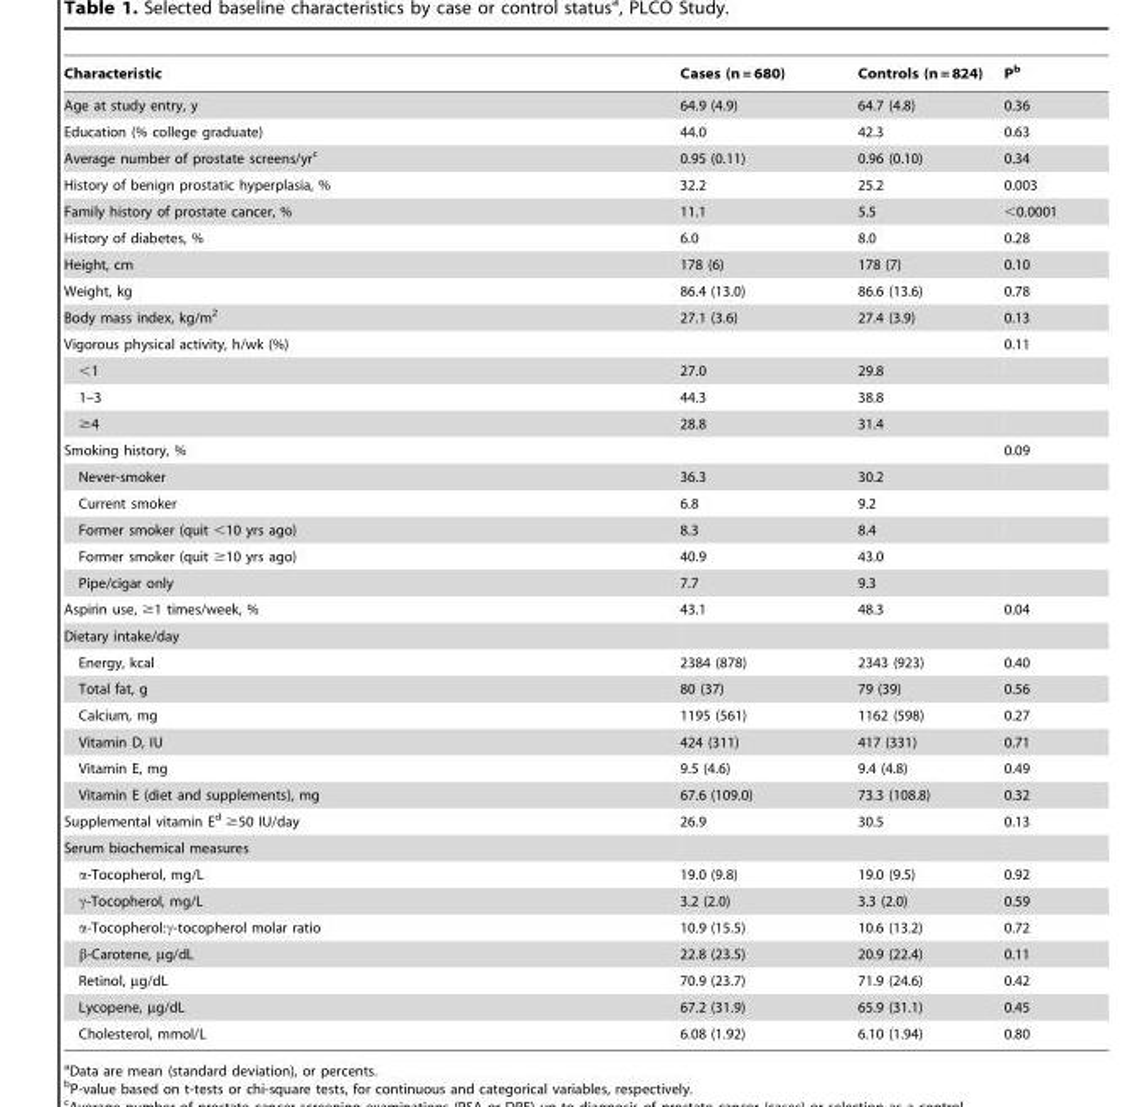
<table><thead><tr><td>Characteristic</td><td>Cases (n = 680)</td><td>Controls (n = 824)</td><td>P<sup>b</sup></td></tr></thead><tbody><tr><td>Age at study entry, y</td><td>64.9 (4.9)</td><td>64.7 (4.8)</td><td>0.36</td></tr><tr><td>Education (% college graduate)</td><td>44.0</td><td>42.3</td><td>0.63</td></tr><tr><td>Average number of prostate screens/yr<sup>c</sup></td><td>0.95 (0.11)</td><td>0.96 (0.10)</td><td>0.34</td></tr><tr><td>History of benign prostatic hyperplasia, %</td><td>32.2</td><td>25.2</td><td>0.003</td></tr><tr><td>Family history of prostate cancer, %</td><td>11.1</td><td>5.5</td><td>&lt;0.0001</td></tr><tr><td>History of diabetes, %</td><td>6.0</td><td>8.0</td><td>0.28</td></tr><tr><td>Height, cm</td><td>178 (6)</td><td>178 (7)</td><td>0.10</td></tr><tr><td>Weight, kg</td><td>86.4 (13.0)</td><td>86.6 (13.6)</td><td>0.78</td></tr><tr><td>Body mass index, kg/m<sup>2</sup></td><td>27.1 (3.6)</td><td>27.4 (3.9)</td><td>0.13</td></tr><tr><td>Vigorous physical activity, h/wk (%)</td><td></td><td></td><td>0.11</td></tr><tr><td>&lt;1</td><td>27.0</td><td>29.8</td><td></td></tr><tr><td>1–3</td><td>44.3</td><td>38.8</td><td></td></tr><tr><td>≥4</td><td>28.8</td><td>31.4</td><td></td></tr><tr><td>Smoking history, %</td><td></td><td></td><td>0.09</td></tr><tr><td>Never-smoker</td><td>36.3</td><td>30.2</td><td></td></tr><tr><td>Current smoker</td><td>6.8</td><td>9.2</td><td></td></tr><tr><td>Former smoker (quit &lt;10 yrs ago)</td><td>8.3</td><td>8.4</td><td></td></tr><tr><td>Former smoker (quit ≥10 yrs ago)</td><td>40.9</td><td>43.0</td><td></td></tr><tr><td>Pipe/cigar only</td><td>7.7</td><td>9.3</td><td></td></tr><tr><td>Aspirin use, ≥1 times/week, %</td><td>43.1</td><td>48.3</td><td>0.04</td></tr><tr><td colspan="4">Dietary intake/day</td></tr><tr><td>Energy, kcal</td><td>2384 (878)</td><td>2343 (923)</td><td>0.40</td></tr><tr><td>Total fat, g</td><td>80 (37)</td><td>79 (39)</td><td>0.56</td></tr><tr><td>Calcium, mg</td><td>1195 (561)</td><td>1162 (598)</td><td>0.27</td></tr><tr><td>Vitamin D, IU</td><td>424 (311)</td><td>417 (331)</td><td>0.71</td></tr><tr><td>Vitamin E, mg</td><td>9.5 (4.6)</td><td>9.4 (4.8)</td><td>0.49</td></tr><tr><td>Vitamin E (diet and supplements), mg</td><td>67.6 (109.0)</td><td>73.3 (108.8)</td><td>0.32</td></tr><tr><td>Supplemental vitamin E<sup>d</sup> ≥50 IU/day</td><td>26.9</td><td>30.5</td><td>0.13</td></tr><tr><td colspan="4">Serum biochemical measures</td></tr><tr><td>α-Tocopherol, mg/L</td><td>19.0 (9.8)</td><td>19.0 (9.5)</td><td>0.92</td></tr><tr><td>γ-Tocopherol, mg/L</td><td>3.2 (2.0)</td><td>3.3 (2.0)</td><td>0.59</td></tr><tr><td>α-Tocopherol:γ-tocopherol molar ratio</td><td>10.9 (15.5)</td><td>10.6 (13.2)</td><td>0.72</td></tr><tr><td>β-Carotene, µg/dL</td><td>22.8 (23.5)</td><td>20.9 (22.4)</td><td>0.11</td></tr><tr><td>Retinol, µg/dL</td><td>70.9 (23.7)</td><td>71.9 (24.6)</td><td>0.42</td></tr><tr><td>Lycopene, µg/dL</td><td>67.2 (31.9)</td><td>65.9 (31.1)</td><td>0.45</td></tr><tr><td>Cholesterol, mmol/L</td><td>6.08 (1.92)</td><td>6.10 (1.94)</td><td>0.80</td></tr></tbody></table>